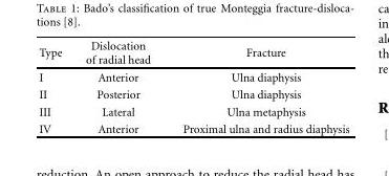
<table><thead><tr><td>Type</td><td>Dislocation of radial head</td><td>Fracture</td></tr></thead><tbody><tr><td>I</td><td>Anterior</td><td>Ulna diaphysis</td></tr><tr><td>II</td><td>Posterior</td><td>Ulna diaphysis</td></tr><tr><td>III</td><td>Lateral</td><td>Ulna metaphysis</td></tr><tr><td>IV</td><td>Anterior</td><td>Proximal ulna and radius diaphysis</td></tr></tbody></table>